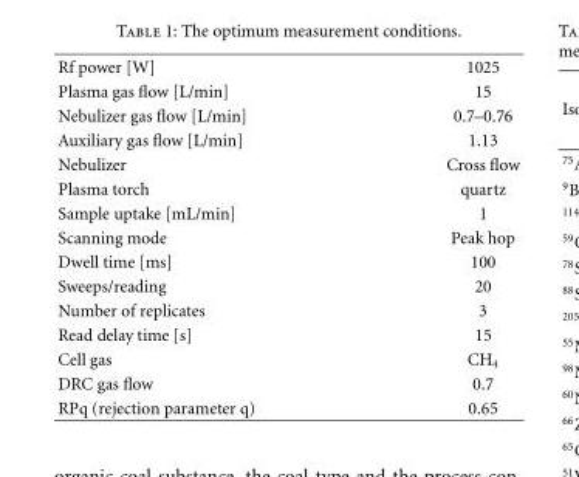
<table><tbody><tr><td>Rf power [W]</td><td>1025</td></tr><tr><td>Plasma gas flow [L/min]</td><td>15</td></tr><tr><td>Nebulizer gas flow [L/min]</td><td>0.7–0.76</td></tr><tr><td>Auxiliary gas flow [L/min]</td><td>1.13</td></tr><tr><td>Nebulizer</td><td>Cross flow</td></tr><tr><td>Plasma torch</td><td>quartz</td></tr><tr><td>Sample uptake [mL/min]</td><td>1</td></tr><tr><td>Scanning mode</td><td>Peak hop</td></tr><tr><td>Dwell time [ms]</td><td>100</td></tr><tr><td>Sweeps/reading</td><td>20</td></tr><tr><td>Number of replicates</td><td>3</td></tr><tr><td>Read delay time [s]</td><td>15</td></tr><tr><td>Cell gas</td><td>CH<sub>4</sub></td></tr><tr><td>DRC gas flow</td><td>0.7</td></tr><tr><td>RPq (rejection parameter q)</td><td>0.65</td></tr></tbody></table>